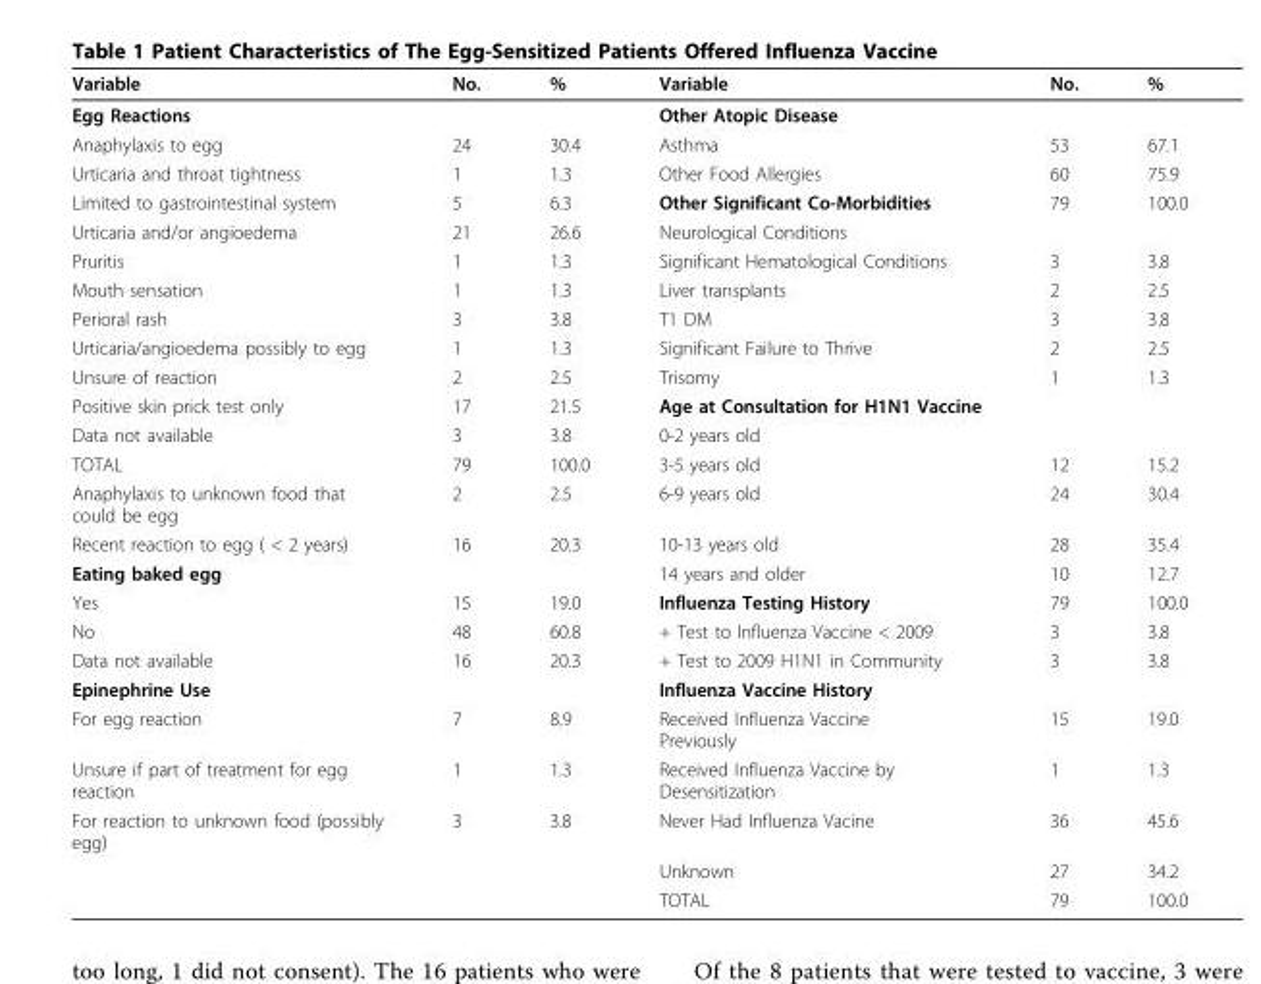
<table><thead><tr><td>Variable</td><td>No.</td><td>%</td><td>Variable</td><td>No.</td><td>%</td></tr></thead><tbody><tr><td>Egg Reactions</td><td></td><td></td><td>Other Atopic Disease</td><td></td><td></td></tr><tr><td>Anaphylaxis to egg</td><td>24</td><td>30.4</td><td>Asthma</td><td>53</td><td>67.1</td></tr><tr><td>Urticaria and throat tightness</td><td>1</td><td>1.3</td><td>Other Food Allergies</td><td>60</td><td>75.9</td></tr><tr><td>Limited to gastrointestinal system</td><td>5</td><td>6.3</td><td>Other Significant Co-Morbidities</td><td>79</td><td>100.0</td></tr><tr><td>Urticaria and/or angioedema</td><td>21</td><td>26.6</td><td>Neurological Conditions</td><td></td><td></td></tr><tr><td>Pruritis</td><td>1</td><td>1.3</td><td>Significant Hematological Conditions</td><td>3</td><td>3.8</td></tr><tr><td>Mouth sensation</td><td>1</td><td>1.3</td><td>Liver transplants</td><td>2</td><td>2.5</td></tr><tr><td>Perioral rash</td><td>3</td><td>3.8</td><td>T1 DM</td><td>3</td><td>3.8</td></tr><tr><td>Urticaria/angioedema possibly to egg</td><td>1</td><td>1.3</td><td>Significant Failure to Thrive</td><td>2</td><td>2.5</td></tr><tr><td>Unsure of reaction</td><td>2</td><td>2.5</td><td>Trisomy</td><td>1</td><td>1.3</td></tr><tr><td>Positive skin prick test only</td><td>17</td><td>21.5</td><td>Age at Consultation for H1N1 Vaccine</td><td></td><td></td></tr><tr><td>Data not available</td><td>3</td><td>3.8</td><td>0-2 years old</td><td></td><td></td></tr><tr><td>TOTAL</td><td>79</td><td>100.0</td><td>3-5 years old</td><td>12</td><td>15.2</td></tr><tr><td>Anaphylaxis to unknown food that could be egg</td><td>2</td><td>2.5</td><td>6-9 years old</td><td>24</td><td>30.4</td></tr><tr><td>Recent reaction to egg ( &lt; 2 years)</td><td>16</td><td>20.3</td><td>10-13 years old</td><td>28</td><td>35.4</td></tr><tr><td>Eating baked egg</td><td></td><td></td><td>14 years and older</td><td>10</td><td>12.7</td></tr><tr><td>Yes</td><td>15</td><td>19.0</td><td>Influenza Testing History</td><td>79</td><td>100.0</td></tr><tr><td>No</td><td>48</td><td>60.8</td><td>+ Test to Influenza Vaccine &lt; 2009</td><td>3</td><td>3.8</td></tr><tr><td>Data not available</td><td>16</td><td>20.3</td><td>+ Test to 2009 H1N1 in Community</td><td>3</td><td>3.8</td></tr><tr><td>Epinephrine Use</td><td></td><td></td><td>Influenza Vaccine History</td><td></td><td></td></tr><tr><td>For egg reaction</td><td>7</td><td>8.9</td><td>Received Influenza Vaccine Previously</td><td>15</td><td>19.0</td></tr><tr><td>Unsure if part of treatment for egg reaction</td><td>1</td><td>1.3</td><td>Received Influenza Vaccine by Desensitization</td><td>1</td><td>1.3</td></tr><tr><td rowspan="3">For reaction to unknown food (possibly egg)</td><td>3</td><td>3.8</td><td>Never Had Influenza Vacine</td><td>36</td><td>45.6</td></tr><tr><td></td><td></td><td>Unknown</td><td>27</td><td>34.2</td></tr><tr><td></td><td></td><td>TOTAL</td><td>79</td><td>100.0</td></tr></tbody></table>